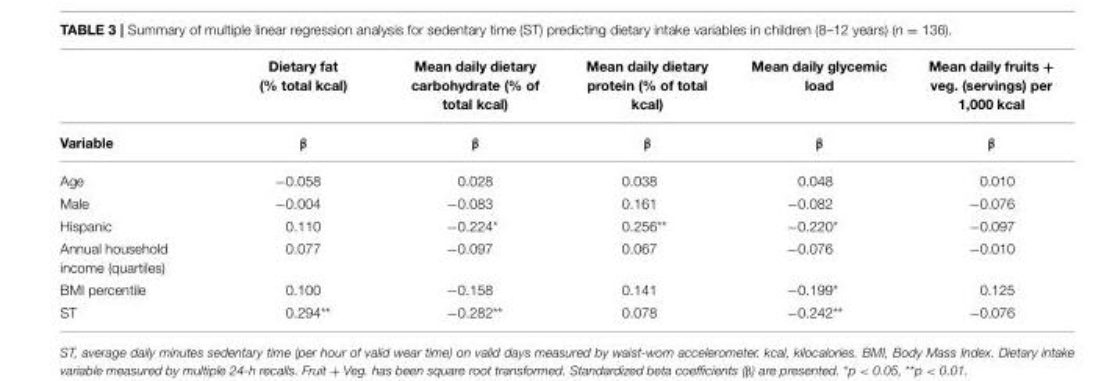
<table><thead><tr><td></td><td>Dietary fat (% total kcal)</td><td>Mean daily dietary carbohydrate (% of total kcal)</td><td>Mean daily dietary protein (% of total kcal)</td><td>Mean daily glycemic load</td><td>Mean daily fruits + veg. (servings) per 1,000 kcal</td></tr></thead><tbody><tr><td>Variable</td><td>β</td><td>β</td><td>β</td><td>β</td><td>β</td></tr><tr><td>Age</td><td>−0.058</td><td>0.028</td><td>0.038</td><td>0.048</td><td>0.010</td></tr><tr><td>Male</td><td>−0.004</td><td>−0.083</td><td>0.161</td><td>−0.082</td><td>−0.076</td></tr><tr><td>Hispanic</td><td>0.110</td><td>−0.224*</td><td>0.256**</td><td>−0.220*</td><td>−0.097</td></tr><tr><td>Annual household income (quartiles)</td><td>0.077</td><td>−0.097</td><td>0.067</td><td>−0.076</td><td>−0.010</td></tr><tr><td>BMI percentile</td><td>0.100</td><td>−0.158</td><td>0.141</td><td>−0.199*</td><td>0.125</td></tr><tr><td>ST</td><td>0.294**</td><td>−0.282**</td><td>0.078</td><td>−0.242**</td><td>−0.076</td></tr></tbody></table>